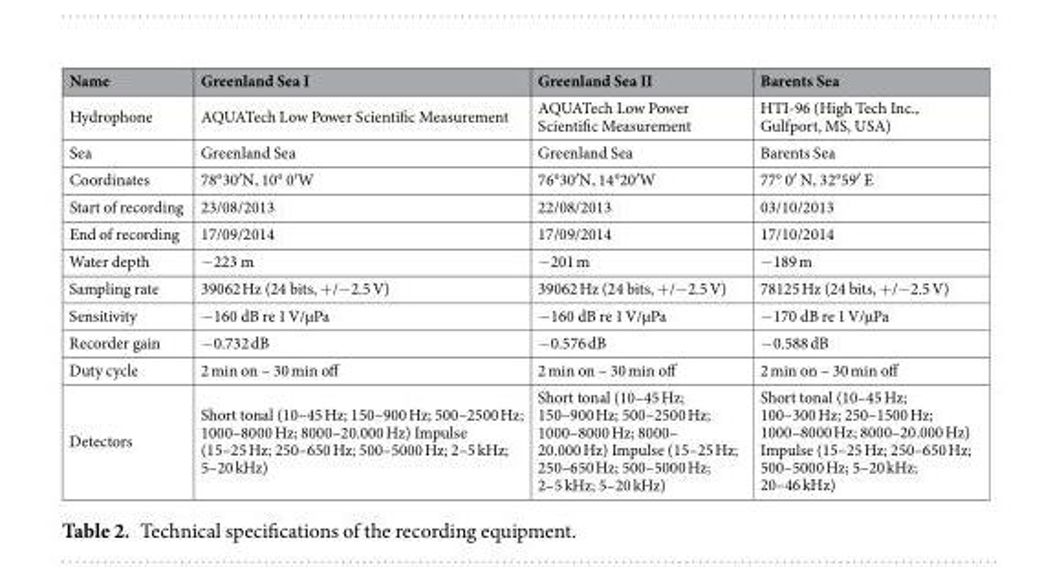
<table><thead><tr><td>Name</td><td>Greenland Sea I</td><td>Greenland Sea II</td><td>Barents Sea</td></tr></thead><tbody><tr><td>Hydrophone</td><td>AQUATech Low Power Scientific Measurement</td><td>AQUATech Low Power Scientific Measurement</td><td>HTI-96 (High Tech Inc., Gulfport, MS, USA)</td></tr><tr><td>Sea</td><td>Greenland Sea</td><td>Greenland Sea</td><td>Barents Sea</td></tr><tr><td>Coordinates</td><td>78°30′N, 10° 0′W</td><td>76°30′N, 14°20′W</td><td>77° 0′ N, 32°59′ E</td></tr><tr><td>Start of recording</td><td>23/08/2013</td><td>22/08/2013</td><td>03/10/2013</td></tr><tr><td>End of recording</td><td>17/09/2014</td><td>17/09/2014</td><td>17/10/2014</td></tr><tr><td>Water depth</td><td>−223 m</td><td>−201 m</td><td>−189 m</td></tr><tr><td>Sampling rate</td><td>39062 Hz (24 bits, +/−2.5 V)</td><td>39062 Hz (24 bits, +/−2.5 V)</td><td>78125 Hz (24 bits, +/−2.5 V)</td></tr><tr><td>Sensitivity</td><td>−160 dB re 1 V/µPa</td><td>−160 dB re 1 V/µPa</td><td>−170 dB re 1 V/µPa</td></tr><tr><td>Recorder gain</td><td>−0.732 dB</td><td>−0.576 dB</td><td>−0.588 dB</td></tr><tr><td>Duty cycle</td><td>2 min on – 30 min off</td><td>2 min on – 30 min off</td><td>2 min on – 30 min off</td></tr><tr><td>Detectors</td><td>Short tonal (10–45 Hz; 150–900 Hz; 500–2500 Hz; 1000–8000 Hz; 8000–20.000 Hz) Impulse (15–25 Hz; 250–650 Hz; 500–5000 Hz; 2–5 kHz; 5–20 kHz)</td><td>Short tonal (10–45 Hz; 150–900 Hz; 500–2500 Hz; 1000–8000 Hz; 8000– 20.000 Hz) Impulse (15–25 Hz; 250–650 Hz; 500–5000 Hz; 2–5 kHz; 5–20 kHz)</td><td>Short tonal (10–45 Hz; 100–300 Hz; 250–1500 Hz; 1000–8000 Hz; 8000–20.000 Hz) Impulse (15–25 Hz; 250–650 Hz; 500–5000 Hz; 5–20 kHz; 20–46 kHz)</td></tr></tbody></table>